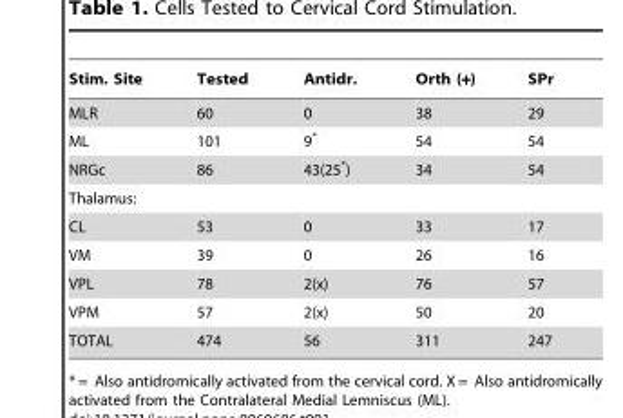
<table><thead><tr><td>Stim. Site</td><td>Tested</td><td>Antidr.</td><td>Orth (+)</td><td>SPr</td></tr></thead><tbody><tr><td>MLR</td><td>60</td><td>0</td><td>38</td><td>29</td></tr><tr><td>ML</td><td>101</td><td>9*</td><td>54</td><td>54</td></tr><tr><td>NRGc</td><td>86</td><td>43(25*)</td><td>34</td><td>54</td></tr><tr><td colspan="5">Thalamus:</td></tr><tr><td>CL</td><td>53</td><td>0</td><td>33</td><td>17</td></tr><tr><td>VM</td><td>39</td><td>0</td><td>26</td><td>16</td></tr><tr><td>VPL</td><td>78</td><td>2(x)</td><td>76</td><td>57</td></tr><tr><td>VPM</td><td>57</td><td>2(x)</td><td>50</td><td>20</td></tr><tr><td>TOTAL</td><td>474</td><td>56</td><td>311</td><td>247</td></tr></tbody></table>